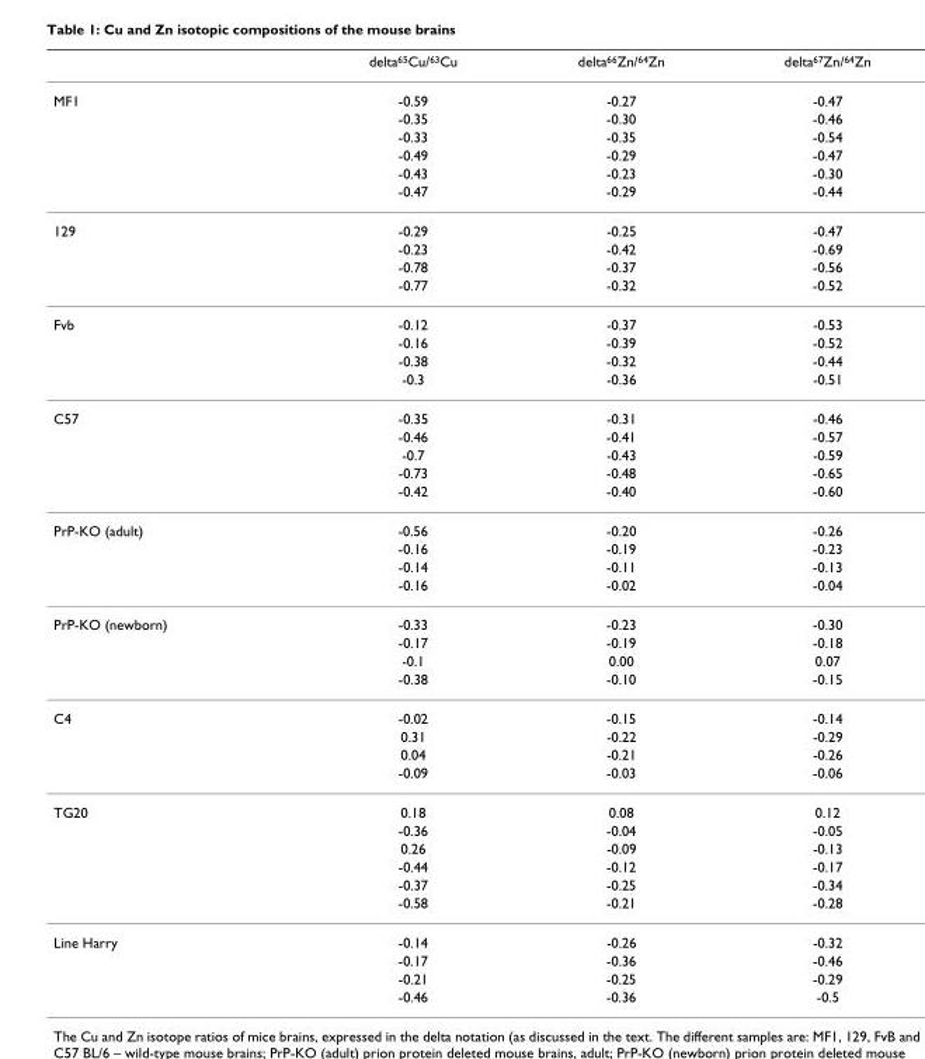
<table><thead><tr><td></td><td>delta<sup>65</sup>Cu/<sup>63</sup>Cu</td><td>delta<sup>66</sup>Zn/<sup>64</sup>Zn</td><td>delta<sup>67</sup>Zn/<sup>64</sup>Zn</td></tr></thead><tbody><tr><td rowspan="6">MF1</td><td>-0.59</td><td>-0.27</td><td>-0.47</td></tr><tr><td>-0.35</td><td>-0.30</td><td>-0.46</td></tr><tr><td>-0.33</td><td>-0.35</td><td>-0.54</td></tr><tr><td>-0.49</td><td>-0.29</td><td>-0.47</td></tr><tr><td>-0.43</td><td>-0.23</td><td>-0.30</td></tr><tr><td>-0.47</td><td>-0.29</td><td>-0.44</td></tr><tr><td rowspan="4">129</td><td>-0.29</td><td>-0.25</td><td>-0.47</td></tr><tr><td>-0.23</td><td>-0.42</td><td>-0.69</td></tr><tr><td>-0.78</td><td>-0.37</td><td>-0.56</td></tr><tr><td>-0.77</td><td>-0.32</td><td>-0.52</td></tr><tr><td rowspan="4">Fvb</td><td>-0.12</td><td>-0.37</td><td>-0.53</td></tr><tr><td>-0.16</td><td>-0.39</td><td>-0.52</td></tr><tr><td>-0.38</td><td>-0.32</td><td>-0.44</td></tr><tr><td>-0.3</td><td>-0.36</td><td>-0.51</td></tr><tr><td rowspan="5">C57</td><td>-0.35</td><td>-0.31</td><td>-0.46</td></tr><tr><td>-0.46</td><td>-0.41</td><td>-0.57</td></tr><tr><td>-0.7</td><td>-0.43</td><td>-0.59</td></tr><tr><td>-0.73</td><td>-0.48</td><td>-0.65</td></tr><tr><td>-0.42</td><td>-0.40</td><td>-0.60</td></tr><tr><td rowspan="4">PrP-KO (adult)</td><td>-0.56</td><td>-0.20</td><td>-0.26</td></tr><tr><td>-0.16</td><td>-0.19</td><td>-0.23</td></tr><tr><td>-0.14</td><td>-0.11</td><td>-0.13</td></tr><tr><td>-0.16</td><td>-0.02</td><td>-0.04</td></tr><tr><td rowspan="4">PrP-KO (newborn)</td><td>-0.33</td><td>-0.23</td><td>-0.30</td></tr><tr><td>-0.17</td><td>-0.19</td><td>-0.18</td></tr><tr><td>-0.1</td><td>0.00</td><td>0.07</td></tr><tr><td>-0.38</td><td>-0.10</td><td>-0.15</td></tr><tr><td rowspan="4">C4</td><td>-0.02</td><td>-0.15</td><td>-0.14</td></tr><tr><td>0.31</td><td>-0.22</td><td>-0.29</td></tr><tr><td>0.04</td><td>-0.21</td><td>-0.26</td></tr><tr><td>-0.09</td><td>-0.03</td><td>-0.06</td></tr><tr><td rowspan="6">TG20</td><td>0.18</td><td>0.08</td><td>0.12</td></tr><tr><td>-0.36</td><td>-0.04</td><td>-0.05</td></tr><tr><td>0.26</td><td>-0.09</td><td>-0.13</td></tr><tr><td>-0.44</td><td>-0.12</td><td>-0.17</td></tr><tr><td>-0.37</td><td>-0.25</td><td>-0.34</td></tr><tr><td>-0.58</td><td>-0.21</td><td>-0.28</td></tr><tr><td rowspan="4">Line Harry</td><td>-0.14</td><td>-0.26</td><td>-0.32</td></tr><tr><td>-0.17</td><td>-0.36</td><td>-0.46</td></tr><tr><td>-0.21</td><td>-0.25</td><td>-0.29</td></tr><tr><td>-0.46</td><td>-0.36</td><td>-0.5</td></tr></tbody></table>